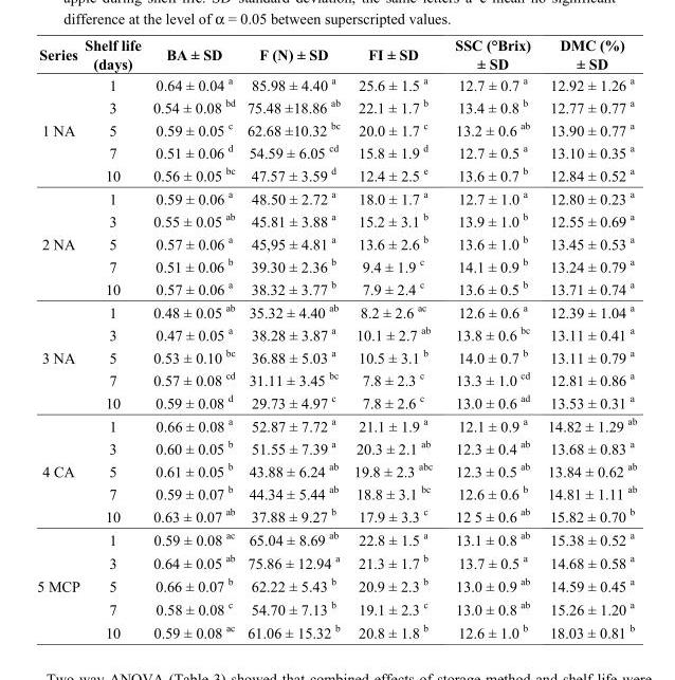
<table><thead><tr><td>Series</td><td>Shelf life (days)</td><td>BA ± SD</td><td>F (N) ± SD</td><td>FI ± SD</td><td>SSC (°Brix) ± SD</td><td>DMC (%) ± SD</td></tr></thead><tbody><tr><td rowspan="5">1 NA</td><td>1</td><td>0.64 ± 0.04 <sup>a</sup></td><td>85.98 ± 4.40 <sup>a</sup></td><td>25.6 ± 1.5 <sup>a</sup></td><td>12.7 ± 0.7 <sup>a</sup></td><td>12.92 ± 1.26 <sup>a</sup></td></tr><tr><td>3</td><td>0.54 ± 0.08 <sup>bd</sup></td><td>75.48 ±18.86 <sup>ab</sup></td><td>22.1 ± 1.7 <sup>b</sup></td><td>13.4 ± 0.8 <sup>b</sup></td><td>12.77 ± 0.77 <sup>a</sup></td></tr><tr><td>5</td><td>0.59 ± 0.05 <sup>c</sup></td><td>62.68 ±10.32 <sup>bc</sup></td><td>20.0 ± 1.7 <sup>c</sup></td><td>13.2 ± 0.6 <sup>ab</sup></td><td>13.90 ± 0.77 <sup>a</sup></td></tr><tr><td>7</td><td>0.51 ± 0.06 <sup>d</sup></td><td>54.59 ± 6.05 <sup>cd</sup></td><td>15.8 ± 1.9 <sup>d</sup></td><td>12.7 ± 0.5 <sup>a</sup></td><td>13.10 ± 0.35 <sup>a</sup></td></tr><tr><td>10</td><td>0.56 ± 0.05 <sup>bc</sup></td><td>47.57 ± 3.59 <sup>d</sup></td><td>12.4 ± 2.5 <sup>e</sup></td><td>13.6 ± 0.7 <sup>b</sup></td><td>12.84 ± 0.52 <sup>a</sup></td></tr><tr><td rowspan="5">2 NA</td><td>1</td><td>0.59 ± 0.06 <sup>a</sup></td><td>48.50 ± 2.72 <sup>a</sup></td><td>18.0 ± 1.7 <sup>a</sup></td><td>12.7 ± 1.0 <sup>a</sup></td><td>12.80 ± 0.23 <sup>a</sup></td></tr><tr><td>3</td><td>0.55 ± 0.05 <sup>ab</sup></td><td>45.81 ± 3.88 <sup>a</sup></td><td>15.2 ± 3.1 <sup>b</sup></td><td>13.9 ± 1.0 <sup>b</sup></td><td>12.55 ± 0.69 <sup>a</sup></td></tr><tr><td>5</td><td>0.57 ± 0.06 <sup>a</sup></td><td>45,95 ± 4.81 <sup>a</sup></td><td>13.6 ± 2.6 <sup>b</sup></td><td>13.6 ± 1.0 <sup>b</sup></td><td>13.45 ± 0.53 <sup>a</sup></td></tr><tr><td>7</td><td>0.51 ± 0.06 <sup>b</sup></td><td>39.30 ± 2.36 <sup>b</sup></td><td>9.4 ± 1.9 <sup>c</sup></td><td>14.1 ± 0.9 <sup>b</sup></td><td>13.24 ± 0.79 <sup>a</sup></td></tr><tr><td>10</td><td>0.57 ± 0.06 <sup>a</sup></td><td>38.32 ± 3.77 <sup>b</sup></td><td>7.9 ± 2.4 <sup>c</sup></td><td>13.6 ± 0.5 <sup>b</sup></td><td>13.71 ± 0.74 <sup>a</sup></td></tr><tr><td rowspan="5">3 NA</td><td>1</td><td>0.48 ± 0.05 <sup>ab</sup></td><td>35.32 ± 4.40 <sup>ab</sup></td><td>8.2 ± 2.6 <sup>ac</sup></td><td>12.6 ± 0.6 <sup>a</sup></td><td>12.39 ± 1.04 <sup>a</sup></td></tr><tr><td>3</td><td>0.47 ± 0.05 <sup>a</sup></td><td>38.28 ± 3.87 <sup>a</sup></td><td>10.1 ± 2.7 <sup>ab</sup></td><td>13.8 ± 0.6 <sup>bc</sup></td><td>13.11 ± 0.41 <sup>a</sup></td></tr><tr><td>5</td><td>0.53 ± 0.10 <sup>bc</sup></td><td>36.88 ± 5.03 <sup>a</sup></td><td>10.5 ± 3.1 <sup>b</sup></td><td>14.0 ± 0.7 <sup>b</sup></td><td>13.11 ± 0.79 <sup>a</sup></td></tr><tr><td>7</td><td>0.57 ± 0.08 <sup>cd</sup></td><td>31.11 ± 3.45 <sup>bc</sup></td><td>7.8 ± 2.3 <sup>c</sup></td><td>13.3 ± 1.0 <sup>cd</sup></td><td>12.81 ± 0.86 <sup>a</sup></td></tr><tr><td>10</td><td>0.59 ± 0.08 <sup>d</sup></td><td>29.73 ± 4.97 <sup>c</sup></td><td>7.8 ± 2.6 <sup>c</sup></td><td>13.0 ± 0.6 <sup>ad</sup></td><td>13.53 ± 0.31 <sup>a</sup></td></tr><tr><td rowspan="5">4 CA</td><td>1</td><td>0.66 ± 0.08 <sup>a</sup></td><td>52.87 ± 7.72 <sup>a</sup></td><td>21.1 ± 1.9 <sup>a</sup></td><td>12.1 ± 0.9 <sup>a</sup></td><td>14.82 ± 1.29 <sup>ab</sup></td></tr><tr><td>3</td><td>0.60 ± 0.05 <sup>b</sup></td><td>51.55 ± 7.39 <sup>a</sup></td><td>20.3 ± 2.1 <sup>ab</sup></td><td>12.3 ± 0.4 <sup>ab</sup></td><td>13.68 ± 0.83 <sup>a</sup></td></tr><tr><td>5</td><td>0.61 ± 0.05 <sup>b</sup></td><td>43.88 ± 6.24 <sup>ab</sup></td><td>19.8 ± 2.3 <sup>abc</sup></td><td>12.3 ± 0.5 <sup>ab</sup></td><td>13.84 ± 0.62 <sup>ab</sup></td></tr><tr><td>7</td><td>0.59 ± 0.07 <sup>b</sup></td><td>44.34 ± 5.44 <sup>ab</sup></td><td>18.8 ± 3.1 <sup>bc</sup></td><td>12.6 ± 0.6 <sup>b</sup></td><td>14.81 ± 1.11 <sup>ab</sup></td></tr><tr><td>10</td><td>0.63 ± 0.07 <sup>ab</sup></td><td>37.88 ± 9.27 <sup>b</sup></td><td>17.9 ± 3.3 <sup>c</sup></td><td>12 5 ± 0.6 <sup>ab</sup></td><td>15.82 ± 0.70 <sup>b</sup></td></tr><tr><td rowspan="5">5 MCP</td><td>1</td><td>0.59 ± 0.08 <sup>ac</sup></td><td>65.04 ± 8.69 <sup>ab</sup></td><td>22.8 ± 1.5 <sup>a</sup></td><td>13.1 ± 0.8 <sup>ab</sup></td><td>15.38 ± 0.52 <sup>a</sup></td></tr><tr><td>3</td><td>0.64 ± 0.05 <sup>ab</sup></td><td>75.86 ± 12.94 <sup>a</sup></td><td>21.3 ± 1.7 <sup>b</sup></td><td>13.7 ± 0.5 <sup>a</sup></td><td>14.68 ± 0.58 <sup>a</sup></td></tr><tr><td>5</td><td>0.66 ± 0.07 <sup>b</sup></td><td>62.22 ± 5.43 <sup>b</sup></td><td>20.9 ± 2.3 <sup>b</sup></td><td>13.0 ± 0.9 <sup>ab</sup></td><td>14.59 ± 0.45 <sup>a</sup></td></tr><tr><td>7</td><td>0.58 ± 0.08 <sup>c</sup></td><td>54.70 ± 7.13 <sup>b</sup></td><td>19.1 ± 2.3 <sup>c</sup></td><td>13.0 ± 0.8 <sup>ab</sup></td><td>15.26 ± 1.20 <sup>a</sup></td></tr><tr><td>10</td><td>0.59 ± 0.08 <sup>ac</sup></td><td>61.06 ± 15.32 <sup>b</sup></td><td>20.8 ± 1.8 <sup>b</sup></td><td>12.6 ± 1.0 <sup>b</sup></td><td>18.03 ± 0.81 <sup>b</sup></td></tr></tbody></table>